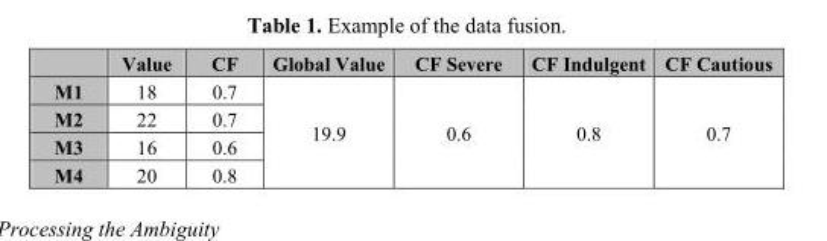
<table><thead><tr><td></td><td>Value</td><td>CF</td><td>Global Value</td><td>CF Severe</td><td>CF Indulgent</td><td>CF Cautious</td></tr></thead><tbody><tr><td>M1</td><td>18</td><td>0.7</td><td rowspan="4">19.9</td><td rowspan="4">0.6</td><td rowspan="4">0.8</td><td rowspan="4">0.7</td></tr><tr><td>M2</td><td>22</td><td>0.7</td></tr><tr><td>M3</td><td>16</td><td>0.6</td></tr><tr><td>M4</td><td>20</td><td>0.8</td></tr></tbody></table>